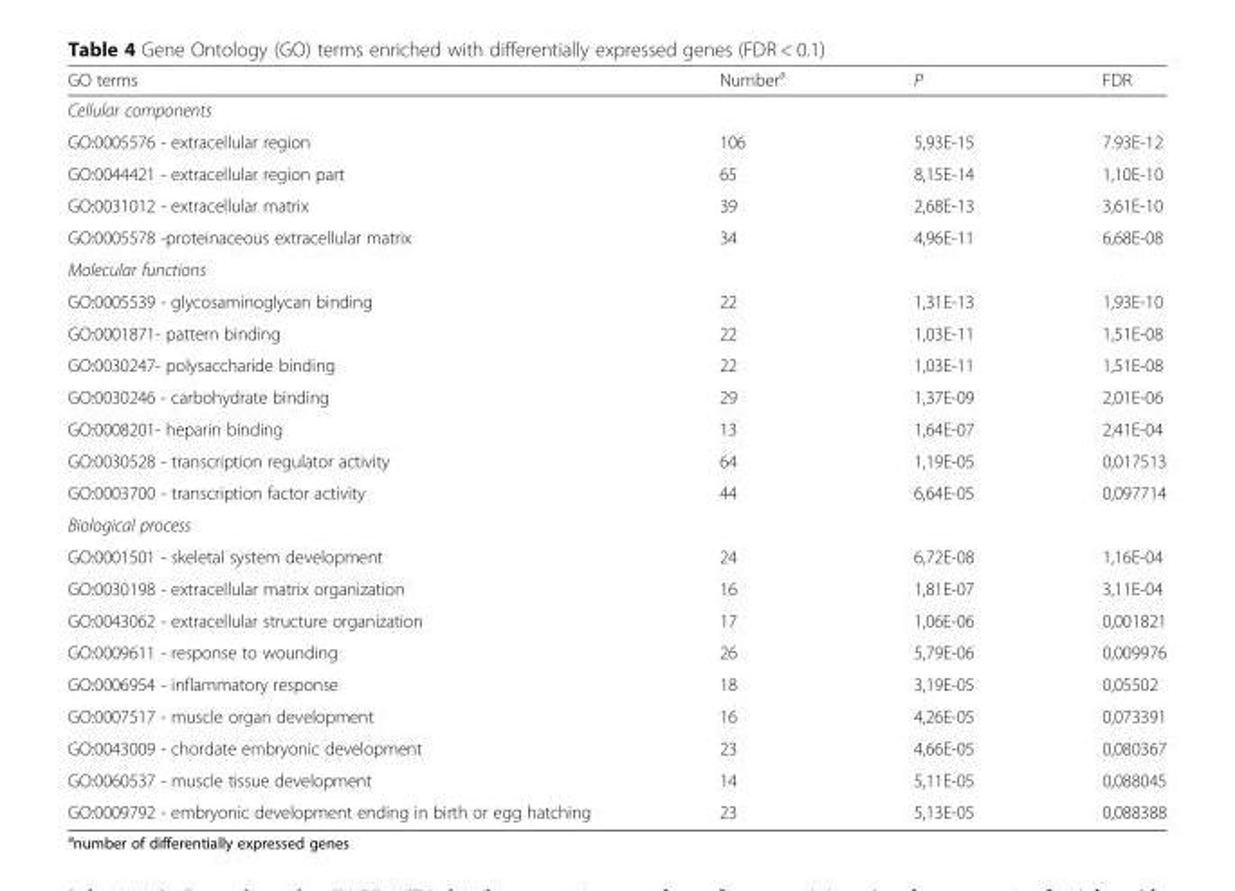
<table><thead><tr><td>GO terms</td><td>Number<sup>a</sup></td><td>P</td><td>FDR</td></tr></thead><tbody><tr><td colspan="4">Cellular components</td></tr><tr><td>GO:0005576 - extracellular region</td><td>106</td><td>5,93E-15</td><td>7.93E-12</td></tr><tr><td>GO:0044421 - extracellular region part</td><td>65</td><td>8,15E-14</td><td>1,10E-10</td></tr><tr><td>GO:0031012 - extracellular matrix</td><td>39</td><td>2,68E-13</td><td>3,61E-10</td></tr><tr><td>GO:0005578 -proteinaceous extracellular matrix</td><td>34</td><td>4,96E-11</td><td>6,68E-08</td></tr><tr><td colspan="4">Molecular functions</td></tr><tr><td>GO:0005539 - glycosaminoglycan binding</td><td>22</td><td>1,31E-13</td><td>1,93E-10</td></tr><tr><td>GO:0001871- pattern binding</td><td>22</td><td>1,03E-11</td><td>1,51E-08</td></tr><tr><td>GO:0030247- polysaccharide binding</td><td>22</td><td>1,03E-11</td><td>1,51E-08</td></tr><tr><td>GO:0030246 - carbohydrate binding</td><td>29</td><td>1,37E-09</td><td>2,01E-06</td></tr><tr><td>GO:0008201- heparin binding</td><td>13</td><td>1,64E-07</td><td>2,41E-04</td></tr><tr><td>GO:0030528 - transcription regulator activity</td><td>64</td><td>1,19E-05</td><td>0,017513</td></tr><tr><td>GO:0003700 - transcription factor activity</td><td>44</td><td>6,64E-05</td><td>0,097714</td></tr><tr><td colspan="4">Biological process</td></tr><tr><td>GO:0001501 - skeletal system development</td><td>24</td><td>6,72E-08</td><td>1,16E-04</td></tr><tr><td>GO:0030198 - extracellular matrix organization</td><td>16</td><td>1,81E-07</td><td>3,11E-04</td></tr><tr><td>GO:0043062 - extracellular structure organization</td><td>17</td><td>1,06E-06</td><td>0,001821</td></tr><tr><td>GO:0009611 - response to wounding</td><td>26</td><td>5,79E-06</td><td>0,009976</td></tr><tr><td>GO:0006954 - inflammatory response</td><td>18</td><td>3,19E-05</td><td>0,05502</td></tr><tr><td>GO:0007517 - muscle organ development</td><td>16</td><td>4,26E-05</td><td>0,073391</td></tr><tr><td>GO:0043009 - chordate embryonic development</td><td>23</td><td>4,66E-05</td><td>0,080367</td></tr><tr><td>GO:0060537 - muscle tissue development</td><td>14</td><td>5,11E-05</td><td>0,088045</td></tr><tr><td>GO:0009792 - embryonic development ending in birth or egg hatching</td><td>23</td><td>5,13E-05</td><td>0,088388</td></tr></tbody></table>